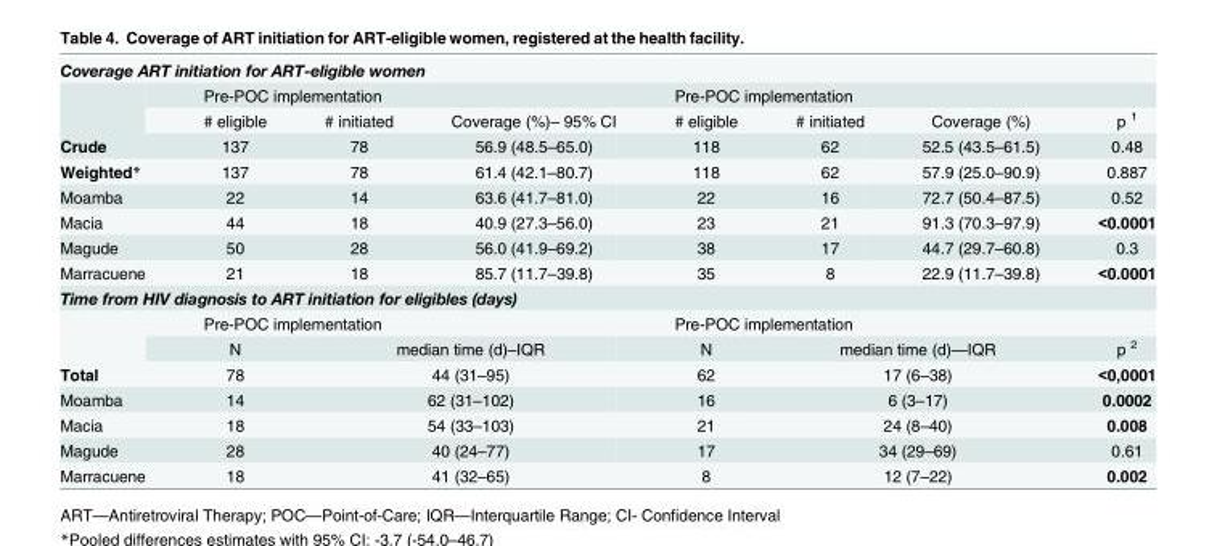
<table><tbody><tr><td colspan="8">Coverage ART initiation for ART-eligible women</td></tr><tr><td rowspan="2"></td><td colspan="3">Pre-POC implementation</td><td colspan="3">Pre-POC implementation</td><td></td></tr><tr><td># eligible</td><td># initiated</td><td>Coverage (%)– 95% CI</td><td># eligible</td><td># initiated</td><td>Coverage (%)</td><td>p <sup>1</sup></td></tr><tr><td>Crude</td><td>137</td><td>78</td><td>56.9 (48.5–65.0)</td><td>118</td><td>62</td><td>52.5 (43.5–61.5)</td><td>0.48</td></tr><tr><td>Weighted*</td><td>137</td><td>78</td><td>61.4 (42.1–80.7)</td><td>118</td><td>62</td><td>57.9 (25.0–90.9)</td><td>0.887</td></tr><tr><td>Moamba</td><td>22</td><td>14</td><td>63.6 (41.7–81.0)</td><td>22</td><td>16</td><td>72.7 (50.4–87.5)</td><td>0.52</td></tr><tr><td>Macia</td><td>44</td><td>18</td><td>40.9 (27.3–56.0)</td><td>23</td><td>21</td><td>91.3 (70.3–97.9)</td><td>&lt;0.0001</td></tr><tr><td>Magude</td><td>50</td><td>28</td><td>56.0 (41.9–69.2)</td><td>38</td><td>17</td><td>44.7 (29.7–60.8)</td><td>0.3</td></tr><tr><td>Marracuene</td><td>21</td><td>18</td><td>85.7 (11.7–39.8)</td><td>35</td><td>8</td><td>22.9 (11.7–39.8)</td><td>&lt;0.0001</td></tr><tr><td colspan="8">Time from HIV diagnosis to ART initiation for eligibles (days)</td></tr><tr><td rowspan="2"></td><td colspan="3">Pre-POC implementation</td><td colspan="3">Pre-POC implementation</td><td></td></tr><tr><td>N</td><td colspan="2">median time (d)–IQR</td><td>N</td><td colspan="2">median time (d)—IQR</td><td>p <sup>2</sup></td></tr><tr><td>Total</td><td>78</td><td colspan="2">44 (31–95)</td><td>62</td><td colspan="2">17 (6–38)</td><td>&lt;0,0001</td></tr><tr><td>Moamba</td><td>14</td><td colspan="2">62 (31–102)</td><td>16</td><td colspan="2">6 (3–17)</td><td>0.0002</td></tr><tr><td>Macia</td><td>18</td><td colspan="2">54 (33–103)</td><td>21</td><td colspan="2">24 (8–40)</td><td>0.008</td></tr><tr><td>Magude</td><td>28</td><td colspan="2">40 (24–77)</td><td>17</td><td colspan="2">34 (29–69)</td><td>0.61</td></tr><tr><td>Marracuene</td><td>18</td><td colspan="2">41 (32–65)</td><td>8</td><td colspan="2">12 (7–22)</td><td>0.002</td></tr></tbody></table>